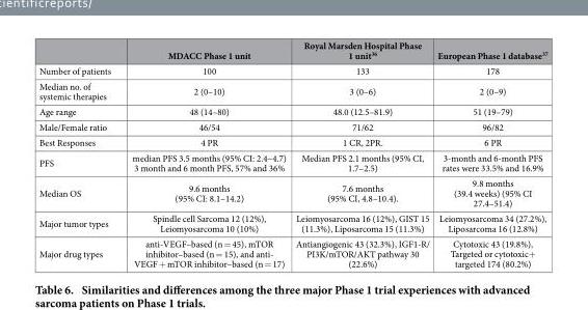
<table><thead><tr><td></td><td>MDACC Phase 1 unit</td><td>Royal Marsden Hospital Phase 1 unit<sup>36</sup></td><td>European Phase 1 database<sup>37</sup></td></tr></thead><tbody><tr><td>Number of patients</td><td>100</td><td>133</td><td>178</td></tr><tr><td>Median no. of systemic therapies</td><td>2 (0–10)</td><td>3 (0–6)</td><td>2 (0–9)</td></tr><tr><td>Age range</td><td>48 (14–80)</td><td>48.0 (12.5–81.9)</td><td>51 (19–79)</td></tr><tr><td>Male/Female ratio</td><td>46/54</td><td>71/62</td><td>96/82</td></tr><tr><td>Best Responses</td><td>4 PR</td><td>1 CR, 2PR.</td><td>6 PR</td></tr><tr><td>PFS</td><td>median PFS 3.5 months (95% CI: 2.4–4.7) 3 month and 6 month PFS, 57% and 36%</td><td>Median PFS 2.1 months (95% CI, 1.7–2.5)</td><td>3-month and 6-month PFS rates were 33.5% and 16.9%</td></tr><tr><td>Median OS</td><td>9.6 months (95% CI: 8.1–14.2)</td><td>7.6 months (95% CI, 4.8–10.4).</td><td>9.8 months (39.4 weeks) (95% CI 27.4–51.4)</td></tr><tr><td>Major tumor types</td><td>Spindle cell Sarcoma 12 (12%), Leiomyosarcoma 10 (10%)</td><td>Leiomyosarcoma 16 (12%), GIST 15 (11.3%), Liposarcoma 15 (11.3%)</td><td>Leiomyosarcoma 34 (27.2%), Liposarcoma 16 (12.8%)</td></tr><tr><td>Major drug types</td><td>anti-VEGF–based (n = 45), mTOR inhibitor–based (n = 15), and anti- VEGF + mTOR inhibitor–based (n = 17)</td><td>Antiangiogenic 43 (32.3%), IGF1-R/ PI3K/mTOR/AKT pathway 30 (22.6%)</td><td>Cytotoxic 43 (19.8%), Targeted or cytotoxic+ targeted 174 (80.2%)</td></tr></tbody></table>